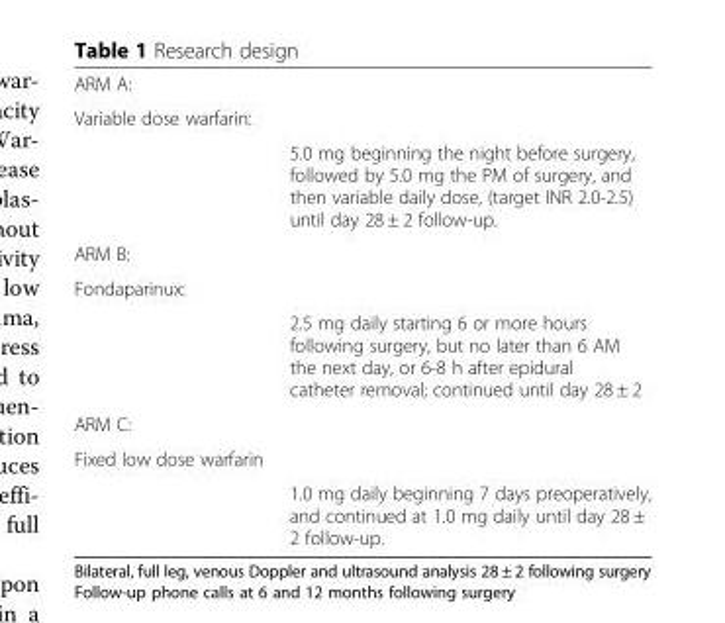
<table><tbody><tr><td colspan="2">ARM A:</td></tr><tr><td colspan="2">Variable dose warfarin:</td></tr><tr><td></td><td>5.0 mg beginning the night before surgery, followed by 5.0 mg the PM of surgery, and then variable daily dose, (target INR 2.0-2.5) until day 28 ± 2 follow-up.</td></tr><tr><td colspan="2">ARM B:</td></tr><tr><td colspan="2">Fondaparinux:</td></tr><tr><td></td><td>2.5 mg daily starting 6 or more hours following surgery, but no later than 6 AM the next day, or 6-8 h after epidural catheter removal; continued until day 28 ± 2</td></tr><tr><td colspan="2">ARM C:</td></tr><tr><td colspan="2">Fixed low dose warfarin</td></tr><tr><td></td><td>1.0 mg daily beginning 7 days preoperatively, and continued at 1.0 mg daily until day 28 ± 2 follow-up.</td></tr></tbody></table>